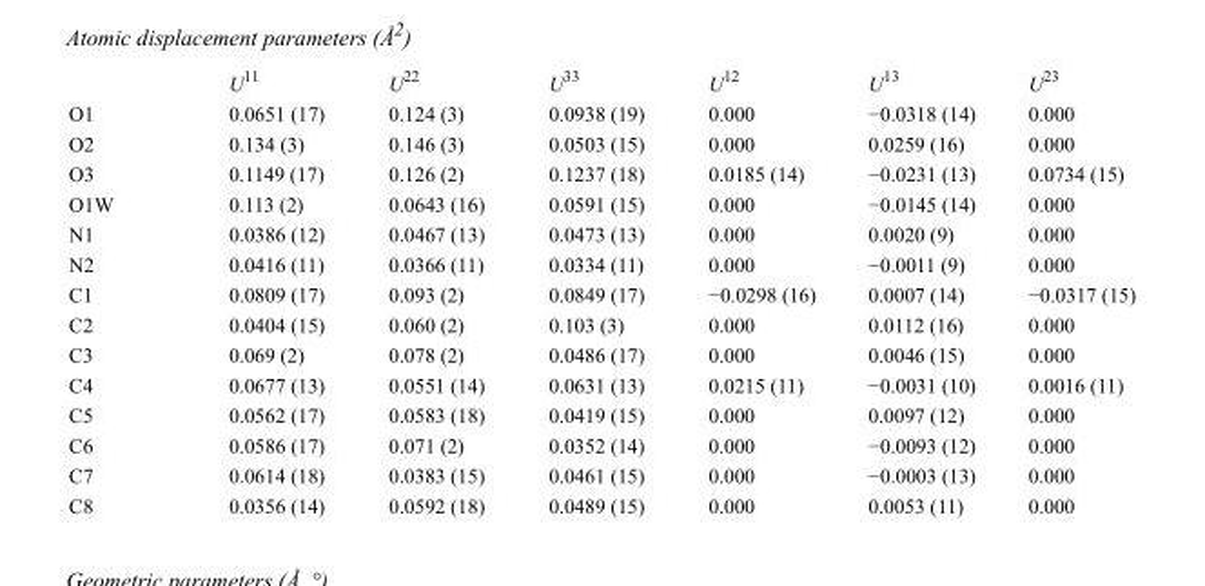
<table><thead><tr><td></td><td>U<sup>11</sup></td><td>U<sup>22</sup></td><td>U<sup>33</sup></td><td>U<sup>12</sup></td><td>U<sup>13</sup></td><td>U<sup>23</sup></td></tr></thead><tbody><tr><td>O1</td><td>0.0651 (17)</td><td>0.124 (3)</td><td>0.0938 (19)</td><td>0.000</td><td>−0.0318 (14)</td><td>0.000</td></tr><tr><td>O2</td><td>0.134 (3)</td><td>0.146 (3)</td><td>0.0503 (15)</td><td>0.000</td><td>0.0259 (16)</td><td>0.000</td></tr><tr><td>O3</td><td>0.1149 (17)</td><td>0.126 (2)</td><td>0.1237 (18)</td><td>0.0185 (14)</td><td>−0.0231 (13)</td><td>0.0734 (15)</td></tr><tr><td>O1W</td><td>0.113 (2)</td><td>0.0643 (16)</td><td>0.0591 (15)</td><td>0.000</td><td>−0.0145 (14)</td><td>0.000</td></tr><tr><td>N1</td><td>0.0386 (12)</td><td>0.0467 (13)</td><td>0.0473 (13)</td><td>0.000</td><td>0.0020 (9)</td><td>0.000</td></tr><tr><td>N2</td><td>0.0416 (11)</td><td>0.0366 (11)</td><td>0.0334 (11)</td><td>0.000</td><td>−0.0011 (9)</td><td>0.000</td></tr><tr><td>C1</td><td>0.0809 (17)</td><td>0.093 (2)</td><td>0.0849 (17)</td><td>−0.0298 (16)</td><td>0.0007 (14)</td><td>−0.0317 (15)</td></tr><tr><td>C2</td><td>0.0404 (15)</td><td>0.060 (2)</td><td>0.103 (3)</td><td>0.000</td><td>0.0112 (16)</td><td>0.000</td></tr><tr><td>C3</td><td>0.069 (2)</td><td>0.078 (2)</td><td>0.0486 (17)</td><td>0.000</td><td>0.0046 (15)</td><td>0.000</td></tr><tr><td>C4</td><td>0.0677 (13)</td><td>0.0551 (14)</td><td>0.0631 (13)</td><td>0.0215 (11)</td><td>−0.0031 (10)</td><td>0.0016 (11)</td></tr><tr><td>C5</td><td>0.0562 (17)</td><td>0.0583 (18)</td><td>0.0419 (15)</td><td>0.000</td><td>0.0097 (12)</td><td>0.000</td></tr><tr><td>C6</td><td>0.0586 (17)</td><td>0.071 (2)</td><td>0.0352 (14)</td><td>0.000</td><td>−0.0093 (12)</td><td>0.000</td></tr><tr><td>C7</td><td>0.0614 (18)</td><td>0.0383 (15)</td><td>0.0461 (15)</td><td>0.000</td><td>−0.0003 (13)</td><td>0.000</td></tr><tr><td>C8</td><td>0.0356 (14)</td><td>0.0592 (18)</td><td>0.0489 (15)</td><td>0.000</td><td>0.0053 (11)</td><td>0.000</td></tr></tbody></table>